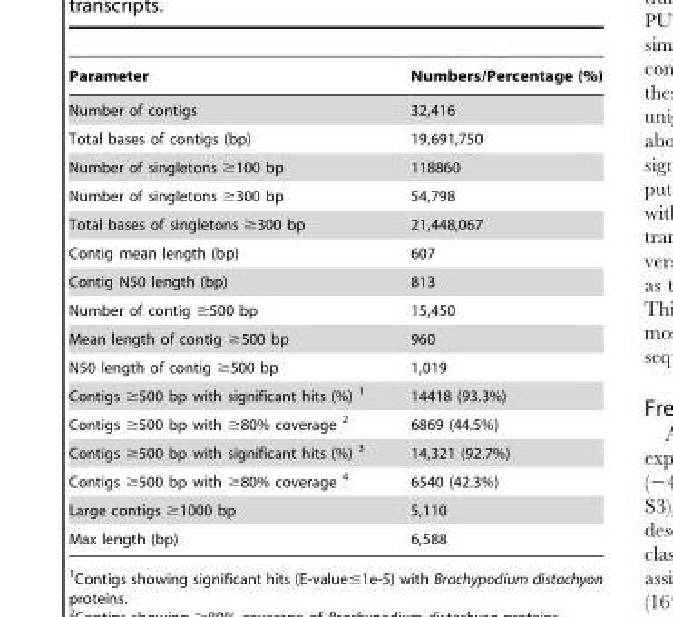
<table><thead><tr><td>Parameter</td><td>Numbers/Percentage (%)</td></tr></thead><tbody><tr><td>Number of contigs</td><td>32,416</td></tr><tr><td>Total bases of contigs (bp)</td><td>19,691,750</td></tr><tr><td>Number of singletons ≥100 bp</td><td>118860</td></tr><tr><td>Number of singletons ≥300 bp</td><td>54,798</td></tr><tr><td>Total bases of singletons ≥300 bp</td><td>21,448,067</td></tr><tr><td>Contig mean length (bp)</td><td>607</td></tr><tr><td>Contig N50 length (bp)</td><td>813</td></tr><tr><td>Number of contig ≥500 bp</td><td>15,450</td></tr><tr><td>Mean length of contig ≥500 bp</td><td>960</td></tr><tr><td>N50 length of contig ≥500 bp</td><td>1,019</td></tr><tr><td>Contigs ≥500 bp with significant hits (%) 1</td><td>14418 (93.3%)</td></tr><tr><td>Contigs ≥500 bp with ≥80% coverage 2</td><td>6869 (44.5%)</td></tr><tr><td>Contigs ≥500 bp with significant hits (%) 3</td><td>14,321 (92.7%)</td></tr><tr><td>Contigs ≥500 bp with ≥80% coverage 4</td><td>6540 (42.3%)</td></tr><tr><td>Large contigs ≥1000 bp</td><td>5,110</td></tr><tr><td>Max length (bp)</td><td>6,588</td></tr></tbody></table>